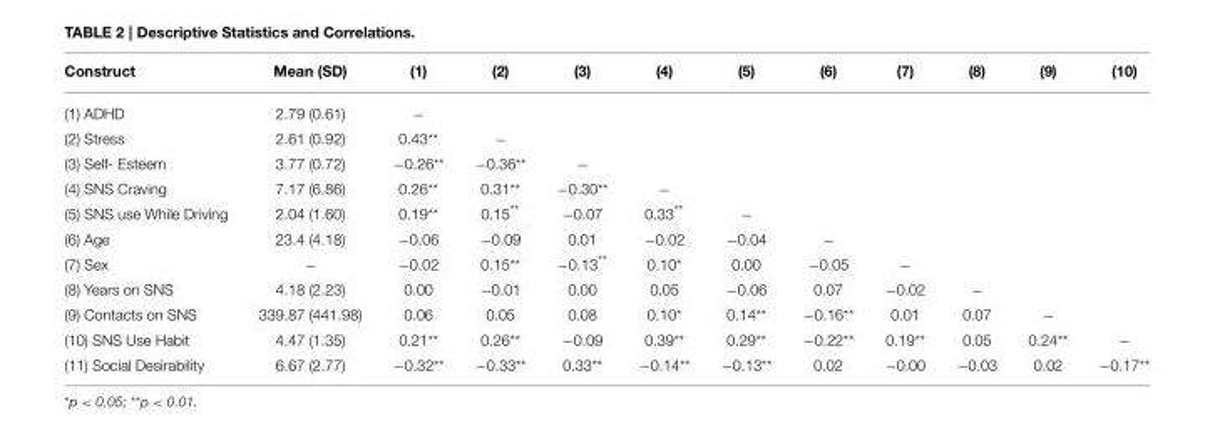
<table><thead><tr><td>Construct</td><td>Mean (SD)</td><td>(1)</td><td>(2)</td><td>(3)</td><td>(4)</td><td>(5)</td><td>(6)</td><td>(7)</td><td>(8)</td><td>(9)</td><td>(10)</td></tr></thead><tbody><tr><td>(1) ADHD</td><td>2.79 (0.61)</td><td>−</td><td></td><td></td><td></td><td></td><td></td><td></td><td></td><td></td><td></td></tr><tr><td>(2) Stress</td><td>2.61 (0.92)</td><td>0.43**</td><td>−</td><td></td><td></td><td></td><td></td><td></td><td></td><td></td><td></td></tr><tr><td>(3) Self- Esteem</td><td>3.77 (0.72)</td><td>−0.26**</td><td>−0.36**</td><td>−</td><td></td><td></td><td></td><td></td><td></td><td></td><td></td></tr><tr><td>(4) SNS Craving</td><td>7.17 (6.86)</td><td>0.26**</td><td>0.31**</td><td>−0.30**</td><td>−</td><td></td><td></td><td></td><td></td><td></td><td></td></tr><tr><td>(5) SNS use While Driving</td><td>2.04 (1.60)</td><td>0.19**</td><td>0.15**</td><td>−0.07</td><td>0.33**</td><td>−</td><td></td><td></td><td></td><td></td><td></td></tr><tr><td>(6) Age</td><td>23.4 (4.18)</td><td>−0.06</td><td>−0.09</td><td>0.01</td><td>−0.02</td><td>−0.04</td><td>−</td><td></td><td></td><td></td><td></td></tr><tr><td>(7) Sex</td><td>−</td><td>−0.02</td><td>0.15**</td><td>−0.13**</td><td>0.10*</td><td>0.00</td><td>−0.05</td><td>−</td><td></td><td></td><td></td></tr><tr><td>(8) Years on SNS</td><td>4.18 (2.23)</td><td>0.00</td><td>−0.01</td><td>0.00</td><td>0.05</td><td>−0.06</td><td>0.07</td><td>−0.02</td><td>−</td><td></td><td></td></tr><tr><td>(9) Contacts on SNS</td><td>339.87 (441.98)</td><td>0.06</td><td>0.05</td><td>0.08</td><td>0.10*</td><td>0.14**</td><td>−0.16**</td><td>0.01</td><td>0.07</td><td>−</td><td></td></tr><tr><td>(10) SNS Use Habit</td><td>4.47 (1.35)</td><td>0.21**</td><td>0.26**</td><td>−0.09</td><td>0.39**</td><td>0.29**</td><td>−0.22**</td><td>0.19**</td><td>0.05</td><td>0.24**</td><td>−</td></tr><tr><td>(11) Social Desirability</td><td>6.67 (2.77)</td><td>−0.32**</td><td>−0.33**</td><td>0.33**</td><td>−0.14**</td><td>−0.13**</td><td>0.02</td><td>−0.00</td><td>−0.03</td><td>0.02</td><td>−0.17**</td></tr></tbody></table>